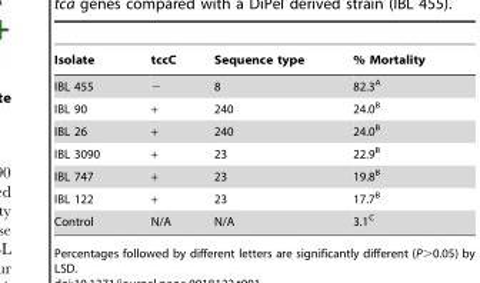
<table><thead><tr><td>Isolate</td><td>tccC</td><td>Sequence type</td><td>% Mortality</td></tr></thead><tbody><tr><td>IBL 455</td><td>−</td><td>8</td><td>82.3<sup>A</sup></td></tr><tr><td>IBL 90</td><td>+</td><td>240</td><td>24.0<sup>B</sup></td></tr><tr><td>IBL 26</td><td>+</td><td>240</td><td>24.0<sup>B</sup></td></tr><tr><td>IBL 3090</td><td>+</td><td>23</td><td>22.9<sup>B</sup></td></tr><tr><td>IBL 747</td><td>+</td><td>23</td><td>19.8<sup>B</sup></td></tr><tr><td>IBL 122</td><td>+</td><td>23</td><td>17.7<sup>B</sup></td></tr><tr><td>Control</td><td>N/A</td><td>N/A</td><td>3.1<sup>C</sup></td></tr></tbody></table>